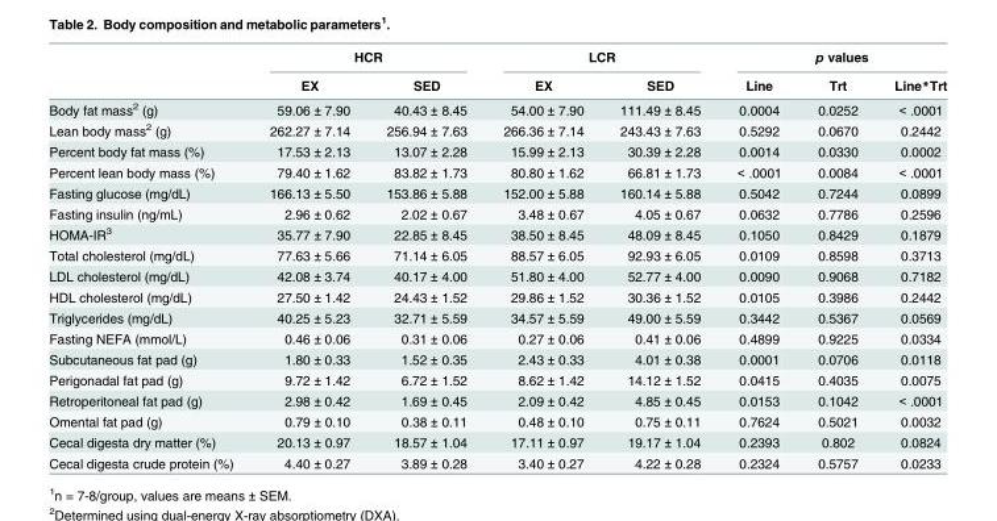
<table><thead><tr><td rowspan="2"></td><td colspan="2">HCR</td><td colspan="2">LCR</td><td colspan="3">p values</td></tr><tr><td>EX</td><td>SED</td><td>EX</td><td>SED</td><td>Line</td><td>Trt</td><td>Line*Trt</td></tr></thead><tbody><tr><td>Body fat mass<sup>2</sup> (g)</td><td>59.06 ± 7.90</td><td>40.43 ± 8.45</td><td>54.00 ± 7.90</td><td>111.49 ± 8.45</td><td>0.0004</td><td>0.0252</td><td>&lt; .0001</td></tr><tr><td>Lean body mass<sup>2</sup> (g)</td><td>262.27 ± 7.14</td><td>256.94 ± 7.63</td><td>266.36 ± 7.14</td><td>243.43 ± 7.63</td><td>0.5292</td><td>0.0670</td><td>0.2442</td></tr><tr><td>Percent body fat mass (%)</td><td>17.53 ± 2.13</td><td>13.07 ± 2.28</td><td>15.99 ± 2.13</td><td>30.39 ± 2.28</td><td>0.0014</td><td>0.0330</td><td>0.0002</td></tr><tr><td>Percent lean body mass (%)</td><td>79.40 ± 1.62</td><td>83.82 ± 1.73</td><td>80.80 ± 1.62</td><td>66.81 ± 1.73</td><td>&lt; .0001</td><td>0.0084</td><td>&lt; .0001</td></tr><tr><td>Fasting glucose (mg/dL)</td><td>166.13 ± 5.50</td><td>153.86 ± 5.88</td><td>152.00 ± 5.88</td><td>160.14 ± 5.88</td><td>0.5042</td><td>0.7244</td><td>0.0899</td></tr><tr><td>Fasting insulin (ng/mL)</td><td>2.96 ± 0.62</td><td>2.02 ± 0.67</td><td>3.48 ± 0.67</td><td>4.05 ± 0.67</td><td>0.0632</td><td>0.7786</td><td>0.2596</td></tr><tr><td>HOMA-IR<sup>3</sup></td><td>35.77 ± 7.90</td><td>22.85 ± 8.45</td><td>38.50 ± 8.45</td><td>48.09 ± 8.45</td><td>0.1050</td><td>0.8429</td><td>0.1879</td></tr><tr><td>Total cholesterol (mg/dL)</td><td>77.63 ± 5.66</td><td>71.14 ± 6.05</td><td>88.57 ± 6.05</td><td>92.93 ± 6.05</td><td>0.0109</td><td>0.8598</td><td>0.3713</td></tr><tr><td>LDL cholesterol (mg/dL)</td><td>42.08 ± 3.74</td><td>40.17 ± 4.00</td><td>51.80 ± 4.00</td><td>52.77 ± 4.00</td><td>0.0090</td><td>0.9068</td><td>0.7182</td></tr><tr><td>HDL cholesterol (mg/dL)</td><td>27.50 ± 1.42</td><td>24.43 ± 1.52</td><td>29.86 ± 1.52</td><td>30.36 ± 1.52</td><td>0.0105</td><td>0.3986</td><td>0.2442</td></tr><tr><td>Triglycerides (mg/dL)</td><td>40.25 ± 5.23</td><td>32.71 ± 5.59</td><td>34.57 ± 5.59</td><td>49.00 ± 5.59</td><td>0.3442</td><td>0.5367</td><td>0.0569</td></tr><tr><td>Fasting NEFA (mmol/L)</td><td>0.46 ± 0.06</td><td>0.31 ± 0.06</td><td>0.27 ± 0.06</td><td>0.41 ± 0.06</td><td>0.4899</td><td>0.9225</td><td>0.0334</td></tr><tr><td>Subcutaneous fat pad (g)</td><td>1.80 ± 0.33</td><td>1.52 ± 0.35</td><td>2.43 ± 0.33</td><td>4.01 ± 0.38</td><td>0.0001</td><td>0.0706</td><td>0.0118</td></tr><tr><td>Perigonadal fat pad (g)</td><td>9.72 ± 1.42</td><td>6.72 ± 1.52</td><td>8.62 ± 1.42</td><td>14.12 ± 1.52</td><td>0.0415</td><td>0.4035</td><td>0.0075</td></tr><tr><td>Retroperitoneal fat pad (g)</td><td>2.98 ± 0.42</td><td>1.69 ± 0.45</td><td>2.09 ± 0.42</td><td>4.85 ± 0.45</td><td>0.0153</td><td>0.1042</td><td>&lt; .0001</td></tr><tr><td>Omental fat pad (g)</td><td>0.79 ± 0.10</td><td>0.38 ± 0.11</td><td>0.48 ± 0.10</td><td>0.75 ± 0.11</td><td>0.7624</td><td>0.5021</td><td>0.0032</td></tr><tr><td>Cecal digesta dry matter (%)</td><td>20.13 ± 0.97</td><td>18.57 ± 1.04</td><td>17.11 ± 0.97</td><td>19.17 ± 1.04</td><td>0.2393</td><td>0.802</td><td>0.0824</td></tr><tr><td>Cecal digesta crude protein (%)</td><td>4.40 ± 0.27</td><td>3.89 ± 0.28</td><td>3.40 ± 0.27</td><td>4.22 ± 0.28</td><td>0.2324</td><td>0.5757</td><td>0.0233</td></tr></tbody></table>